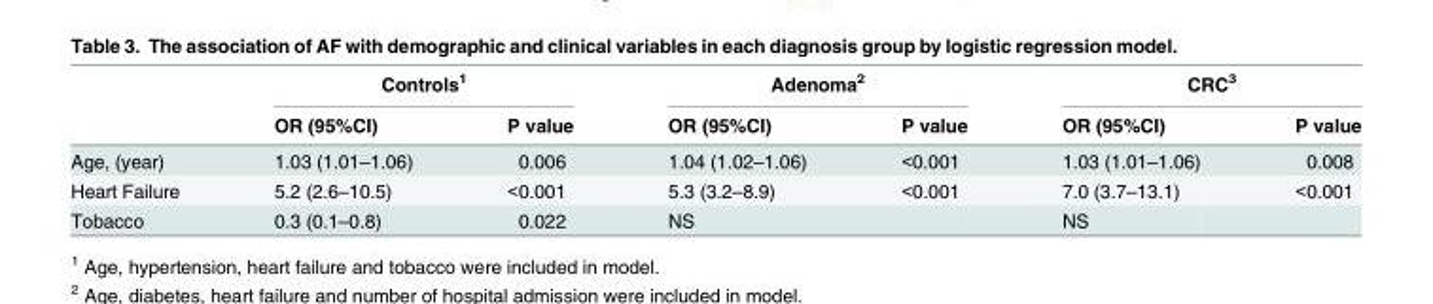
<table><thead><tr><td rowspan="2"></td><td colspan="2">Controls<sup>1</sup></td><td colspan="2">Adenoma<sup>2</sup></td><td colspan="2">CRC<sup>3</sup></td></tr><tr><td>OR (95%CI)</td><td>P value</td><td>OR (95%CI)</td><td>P value</td><td>OR (95%CI)</td><td>P value</td></tr></thead><tbody><tr><td>Age, (year)</td><td>1.03 (1.01–1.06)</td><td>0.006</td><td>1.04 (1.02–1.06)</td><td>&lt;0.001</td><td>1.03 (1.01–1.06)</td><td>0.008</td></tr><tr><td>Heart Failure</td><td>5.2 (2.6–10.5)</td><td>&lt;0.001</td><td>5.3 (3.2–8.9)</td><td>&lt;0.001</td><td>7.0 (3.7–13.1)</td><td>&lt;0.001</td></tr><tr><td>Tobacco</td><td>0.3 (0.1–0.8)</td><td>0.022</td><td>NS</td><td></td><td>NS</td><td></td></tr></tbody></table>